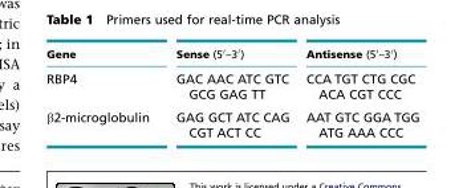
<table><thead><tr><td>Gene</td><td>Sense (5′–3′)</td><td>Antisense (5′–3′)</td></tr></thead><tbody><tr><td>RBP4</td><td>GAC AAC ATC GTC GCG GAG TT</td><td>CCA TGT CTG CGC ACA CGT CCC</td></tr><tr><td>β2-microglobulin</td><td>GAG GCT ATC CAG CGT ACT CC</td><td>AAT GTC GGA TGG ATG AAA CCC</td></tr></tbody></table>